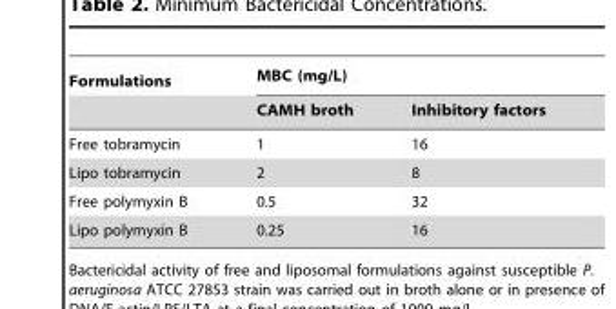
<table><thead><tr><td rowspan="2">Formulations</td><td colspan="2">MBC (mg/L)</td></tr><tr><td>CAMH broth</td><td>Inhibitory factors</td></tr></thead><tbody><tr><td>Free tobramycin</td><td>1</td><td>16</td></tr><tr><td>Lipo tobramycin</td><td>2</td><td>8</td></tr><tr><td>Free polymyxin B</td><td>0.5</td><td>32</td></tr><tr><td>Lipo polymyxin B</td><td>0.25</td><td>16</td></tr></tbody></table>